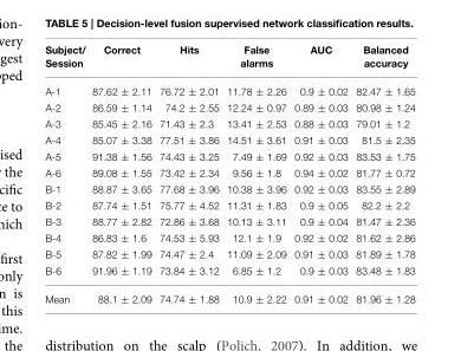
<table><thead><tr><td>Subject/ Session</td><td>Correct</td><td>Hits</td><td>False alarms</td><td>AUC</td><td>Balanced accuracy</td></tr></thead><tbody><tr><td>A-1</td><td>87.62 ± 2.11</td><td>76.72 ± 2.01</td><td>11.78 ± 2.26</td><td>0.9 ± 0.02</td><td>82.47 ± 1.65</td></tr><tr><td>A-2</td><td>86.59 ± 1.14</td><td>74.2 ± 2.55</td><td>12.24 ± 0.97</td><td>0.89 ± 0.03</td><td>80.98 ± 1.24</td></tr><tr><td>A-3</td><td>85.45 ± 2.16</td><td>71.43 ± 2.3</td><td>13.41 ± 2.53</td><td>0.88 ± 0.03</td><td>79.01 ± 1.2</td></tr><tr><td>A-4</td><td>85.07 ± 3.38</td><td>77.51 ± 3.86</td><td>14.51 ± 3.61</td><td>0.91 ± 0.03</td><td>81.5 ± 2.35</td></tr><tr><td>A-5</td><td>91.38 ± 1.56</td><td>74.43 ± 3.25</td><td>7.49 ± 1.69</td><td>0.92 ± 0.03</td><td>83.53 ± 1.75</td></tr><tr><td>A-6</td><td>89.08 ± 1.55</td><td>73.42 ± 2.34</td><td>9.56 ± 1.8</td><td>0.94 ± 0.02</td><td>81.77 ± 0.72</td></tr><tr><td>B-1</td><td>88.87 ± 3.65</td><td>77.68 ± 3.96</td><td>10.38 ± 3.96</td><td>0.92 ± 0.03</td><td>83.55 ± 2.89</td></tr><tr><td>B-2</td><td>87.74 ± 1.51</td><td>75.77 ± 4.52</td><td>11.31 ± 1.83</td><td>0.9 ± 0.05</td><td>82.2 ± 2.2</td></tr><tr><td>B-3</td><td>88.77 ± 2.82</td><td>72.86 ± 3.68</td><td>10.13 ± 3.11</td><td>0.9 ± 0.04</td><td>81.47 ± 2.36</td></tr><tr><td>B-4</td><td>86.83 ± 1.6</td><td>74.53 ± 5.93</td><td>12.1 ± 1.9</td><td>0.92 ± 0.02</td><td>81.62 ± 2.86</td></tr><tr><td>B-5</td><td>87.82 ± 1.99</td><td>74.47 ± 2.4</td><td>11.09 ± 2.09</td><td>0.91 ± 0.03</td><td>81.89 ± 1.78</td></tr><tr><td>B-6</td><td>91.96 ± 1.19</td><td>73.84 ± 3.12</td><td>6.85 ± 1.2</td><td>0.9 ± 0.03</td><td>83.48 ± 1.83</td></tr><tr><td>Mean</td><td>88.1 ± 2.09</td><td>74.74 ± 1.88</td><td>10.9 ± 2.22</td><td>0.91 ± 0.02</td><td>81.96 ± 1.28</td></tr></tbody></table>